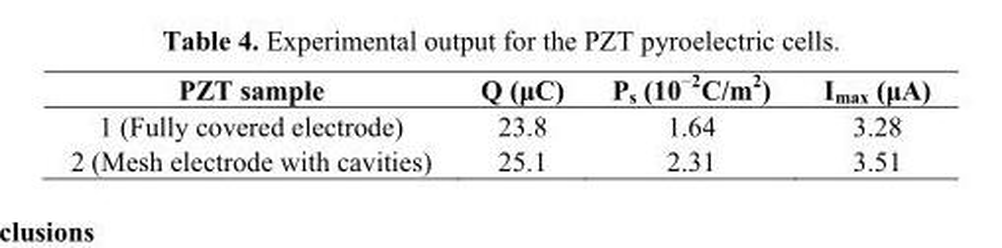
<table><thead><tr><td>PZT sample</td><td>Q (μC)</td><td>P<sub>s</sub> (10<sup>−2</sup>C/m<sup>2</sup>)</td><td>I<sub>max</sub> (μA)</td></tr></thead><tbody><tr><td>1 (Fully covered electrode)</td><td>23.8</td><td>1.64</td><td>3.28</td></tr><tr><td>2 (Mesh electrode with cavities)</td><td>25.1</td><td>2.31</td><td>3.51</td></tr></tbody></table>